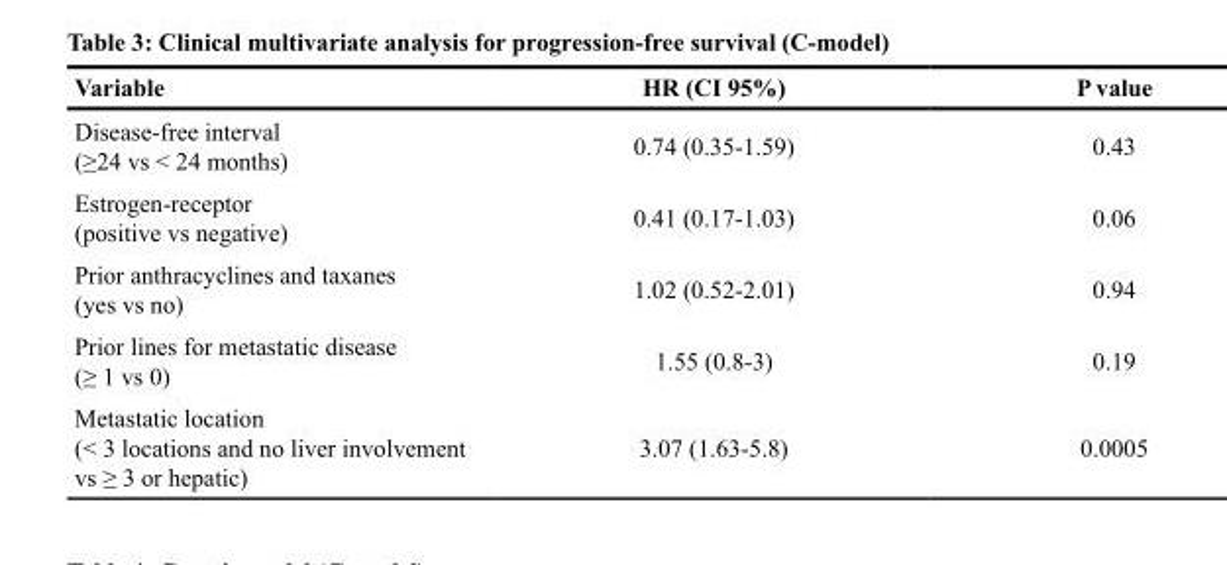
<table><thead><tr><td>Variable</td><td>HR (CI 95%)</td><td>P value</td></tr></thead><tbody><tr><td>Disease-free interval (≥24 vs &lt; 24 months)</td><td>0.74 (0.35-1.59)</td><td>0.43</td></tr><tr><td>Estrogen-receptor (positive vs negative)</td><td>0.41 (0.17-1.03)</td><td>0.06</td></tr><tr><td>Prior anthracyclines and taxanes (yes vs no)</td><td>1.02 (0.52-2.01)</td><td>0.94</td></tr><tr><td>Prior lines for metastatic disease (≥ 1 vs 0)</td><td>1.55 (0.8-3)</td><td>0.19</td></tr><tr><td>Metastatic location (&lt; 3 locations and no liver involvement vs ≥ 3 or hepatic)</td><td>3.07 (1.63-5.8)</td><td>0.0005</td></tr></tbody></table>